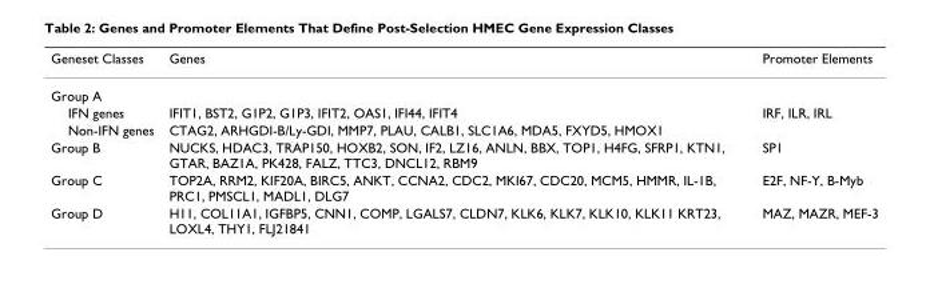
<table><thead><tr><td>Geneset Classes</td><td>Genes</td><td>Promoter Elements</td></tr></thead><tbody><tr><td colspan="3">Group A</td></tr><tr><td>IFN genes</td><td>IFIT1, BST2, G1P2, G1P3, IFIT2, OAS1, IFI44, IFIT4</td><td>IRF, ILR, IRL</td></tr><tr><td>Non-IFN genes</td><td>CTAG2, ARHGDI-B/Ly-GDI, MMP7, PLAU, CALB1, SLC1A6, MDA5, FXYD5, HMOX1</td><td></td></tr><tr><td>Group B</td><td>NUCKS, HDAC3, TRAP150, HOXB2, SON, IF2, LZ16, ANLN, BBX, TOP1, H4FG, SFRP1, KTN1, GTAR, BAZ1A, PK428, FALZ, TTC3, DNCL12, RBM9</td><td>SP1</td></tr><tr><td>Group C</td><td>TOP2A, RRM2, KIF20A, BIRC5, ANKT, CCNA2, CDC2, MKI67, CDC20, MCM5, HMMR, IL-1B, PRC1, PMSCL1, MADL1, DLG7</td><td>E2F, NF-Y, B-Myb</td></tr><tr><td>Group D</td><td>H11, COL11A1, IGFBP5, CNN1, COMP, LGALS7, CLDN7, KLK6, KLK7, KLK10, KLK11 KRT23, LOXL4, THY1, FLJ21841</td><td>MAZ, MAZR, MEF-3</td></tr></tbody></table>